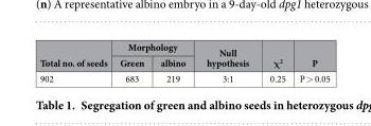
<table><thead><tr><td rowspan="2">Total no. of seeds</td><td colspan="2">Morphology</td><td rowspan="2">Null hypothesis</td><td rowspan="2">χ<sup>2</sup></td><td rowspan="2">P</td></tr><tr><td>Green</td><td>albino</td></tr></thead><tbody><tr><td>902</td><td>683</td><td>219</td><td>3:1</td><td>0.25</td><td>P &gt; 0.05</td></tr></tbody></table>